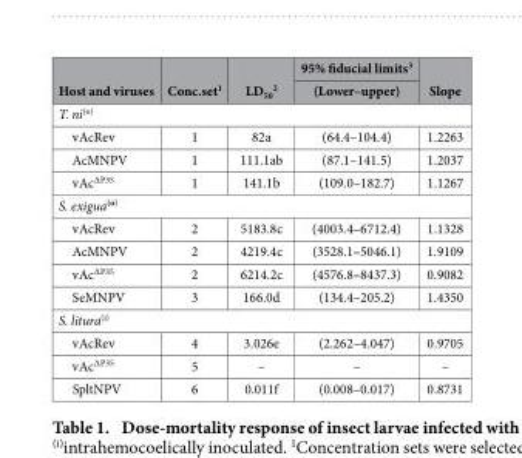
<table><thead><tr><td rowspan="2">Host and viruses</td><td rowspan="2">Conc.set<sup>1</sup></td><td rowspan="2">LD<sub>50</sub> <sup>2</sup></td><td rowspan="2">95% fiducial limits<sup>3</sup> (Lower–upper)</td><td rowspan="2">Slope</td></tr><tr></tr></thead><tbody><tr><td colspan="5">T. ni(o)</td></tr><tr><td>vAcRev</td><td>1</td><td>82a</td><td>(64.4–104.4)</td><td>1.2263</td></tr><tr><td>AcMNPV</td><td>1</td><td>111.1ab</td><td>(87.1–141.5)</td><td>1.2037</td></tr><tr><td>vAc<sup>∆P35</sup></td><td>1</td><td>141.1b</td><td>(109.0–182.7)</td><td>1.1267</td></tr><tr><td colspan="5">S. exigua(o)</td></tr><tr><td>vAcRev</td><td>2</td><td>5183.8c</td><td>(4003.4–6712.4)</td><td>1.1328</td></tr><tr><td>AcMNPV</td><td>2</td><td>4219.4c</td><td>(3528.1–5046.1)</td><td>1.9109</td></tr><tr><td>vAc<sup>∆P35</sup></td><td>2</td><td>6214.2c</td><td>(4576.8–8437.3)</td><td>0.9082</td></tr><tr><td>SeMNPV</td><td>3</td><td>166.0d</td><td>(134.4–205.2)</td><td>1.4350</td></tr><tr><td colspan="5">S. litura<sup>(i)</sup></td></tr><tr><td>vAcRev</td><td>4</td><td>3.026e</td><td>(2.262–4.047)</td><td>0.9705</td></tr><tr><td>vAc<sup>∆P35</sup></td><td>5</td><td>–</td><td>–</td><td>–</td></tr><tr><td>SpltNPV</td><td>6</td><td>0.011f</td><td>(0.008–0.017)</td><td>0.8731</td></tr></tbody></table>